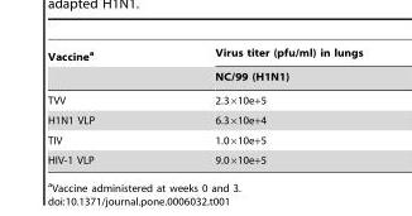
<table><thead><tr><td rowspan="2">Vaccine<sup>a</sup></td><td rowspan="2">Virus titer (pfu/ml) in lungs NC/99 (H1N1)</td></tr><tr></tr></thead><tbody><tr><td>TVV</td><td>2.3×10e+5</td></tr><tr><td>H1N1 VLP</td><td>6.3×10e+4</td></tr><tr><td>TIV</td><td>1.0×10e+5</td></tr><tr><td>HIV-1 VLP</td><td>9.0×10e+5</td></tr></tbody></table>